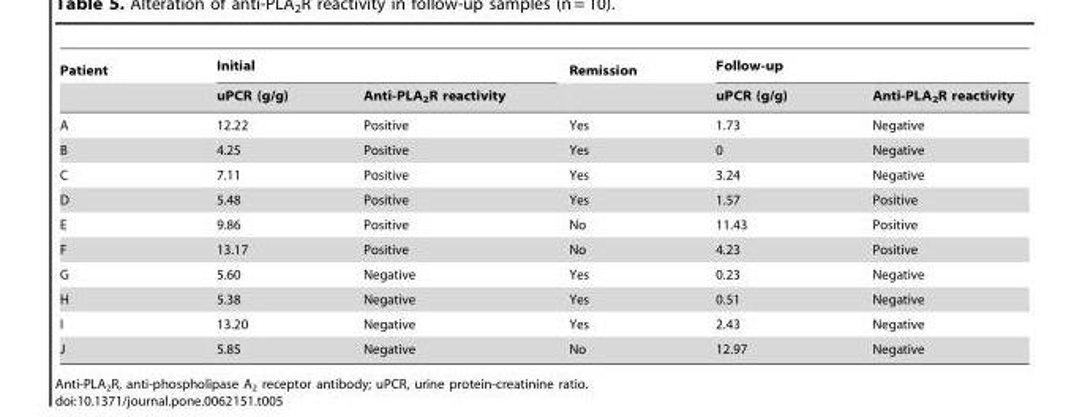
<table><thead><tr><td rowspan="2">Patient</td><td colspan="2">Initial</td><td rowspan="2">Remission</td><td colspan="2">Follow-up</td></tr><tr><td>uPCR (g/g)</td><td>Anti-PLA<sub>2</sub>R reactivity</td><td>uPCR (g/g)</td><td>Anti-PLA<sub>2</sub>R reactivity</td></tr></thead><tbody><tr><td>A</td><td>12.22</td><td>Positive</td><td>Yes</td><td>1.73</td><td>Negative</td></tr><tr><td>B</td><td>4.25</td><td>Positive</td><td>Yes</td><td>0</td><td>Negative</td></tr><tr><td>C</td><td>7.11</td><td>Positive</td><td>Yes</td><td>3.24</td><td>Negative</td></tr><tr><td>D</td><td>5.48</td><td>Positive</td><td>Yes</td><td>1.57</td><td>Positive</td></tr><tr><td>E</td><td>9.86</td><td>Positive</td><td>No</td><td>11.43</td><td>Positive</td></tr><tr><td>F</td><td>13.17</td><td>Positive</td><td>No</td><td>4.23</td><td>Positive</td></tr><tr><td>G</td><td>5.60</td><td>Negative</td><td>Yes</td><td>0.23</td><td>Negative</td></tr><tr><td>H</td><td>5.38</td><td>Negative</td><td>Yes</td><td>0.51</td><td>Negative</td></tr><tr><td>I</td><td>13.20</td><td>Negative</td><td>Yes</td><td>2.43</td><td>Negative</td></tr><tr><td>J</td><td>5.85</td><td>Negative</td><td>No</td><td>12.97</td><td>Negative</td></tr></tbody></table>